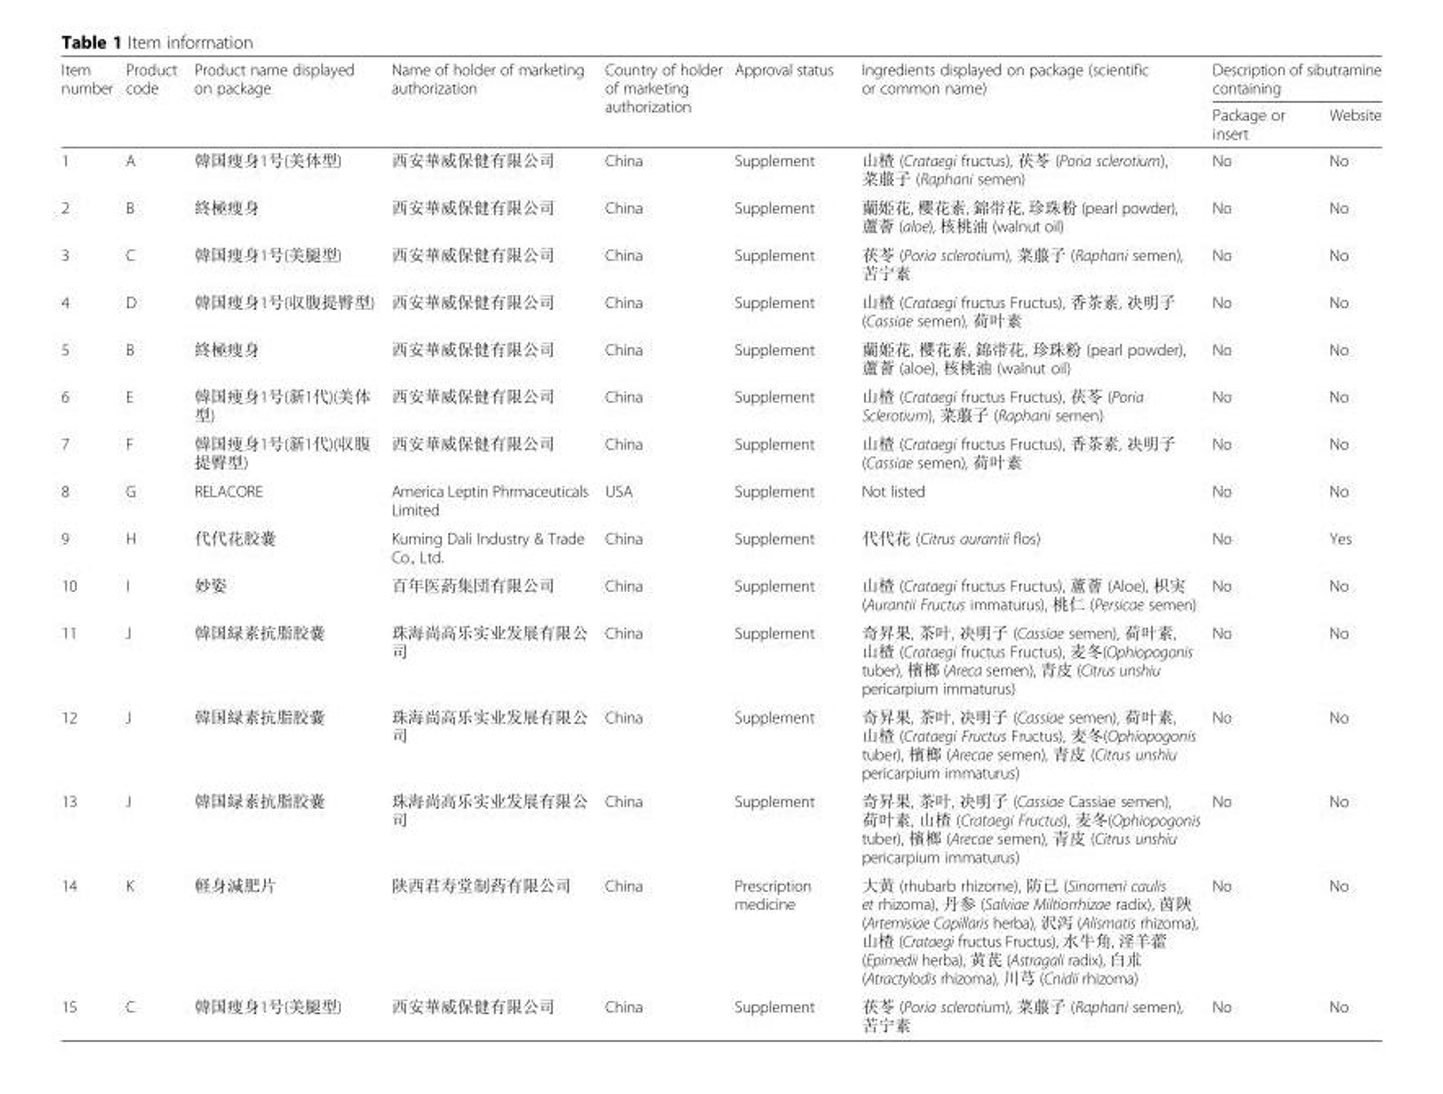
<table><thead><tr><td rowspan="2">Item number</td><td rowspan="2">Product code</td><td rowspan="2">Product name displayed on package</td><td rowspan="2">Name of holder of marketing authorization</td><td rowspan="2">Country of holder of marketing authorization</td><td rowspan="2">Approval status</td><td rowspan="2">Ingredients displayed on package (scientific or common name)</td><td colspan="2">Description of sibutramine containing</td></tr><tr><td>Package or insert</td><td>Website</td></tr></thead><tbody><tr><td>1</td><td>A</td><td>韓国痩身1号(美体型)</td><td>西安華威保健有限公司</td><td>China</td><td>Supplement</td><td>山楂 (Crataegi fructus), 茯苓 (Poria sclerotium), 菜菔子 (Raphani semen)</td><td>No</td><td>No</td></tr><tr><td>2</td><td>B</td><td>終極痩身</td><td>西安華威保健有限公司</td><td>China</td><td>Supplement</td><td>蘭姫花, 櫻花素, 錦帯花, 珍珠粉 (pearl powder), 蘆薈 (aloe), 核桃油 (walnut oil)</td><td>No</td><td>No</td></tr><tr><td>3</td><td>C</td><td>韓国痩身1号(美腿型)</td><td>西安華威保健有限公司</td><td>China</td><td>Supplement</td><td>茯苓 (Poria sclerotium), 菜菔子 (Raphani semen), 苦宁素</td><td>No</td><td>No</td></tr><tr><td>4</td><td>D</td><td>韓国痩身1号(収腹提臀型)</td><td>西安華威保健有限公司</td><td>China</td><td>Supplement</td><td>山楂 (Crataegi fructus Fructus), 香茶素, 决明子 (Cassiae semen), 荷叶素</td><td>No</td><td>No</td></tr><tr><td>5</td><td>B</td><td>終極痩身</td><td>西安華威保健有限公司</td><td>China</td><td>Supplement</td><td>蘭姫花, 櫻花素, 錦帯花, 珍珠粉 (pearl powder), 蘆薈 (aloe), 核桃油 (walnut oil)</td><td>No</td><td>No</td></tr><tr><td>6</td><td>E</td><td>韓国痩身1号(新1代)(美体 型)</td><td>西安華威保健有限公司</td><td>China</td><td>Supplement</td><td>山楂 (Crataegi fructus Fructus), 茯苓 (Poria Sclerotium), 菜菔子 (Raphani semen)</td><td>No</td><td>No</td></tr><tr><td>7</td><td>F</td><td>韓国痩身1号(新1代)(収腹 提臀型)</td><td>西安華威保健有限公司</td><td>China</td><td>Supplement</td><td>山楂 (Crataegi fructus Fructus), 香茶素, 决明子 (Cassiae semen), 荷叶素</td><td>No</td><td>No</td></tr><tr><td>8</td><td>G</td><td>RELACORE</td><td>America Leptin Phrmaceuticals Limited</td><td>USA</td><td>Supplement</td><td>Not listed</td><td>No</td><td>No</td></tr><tr><td>9</td><td>H</td><td>代代花胶嚢</td><td>Kuming Dali Industry &amp; Trade Co., Ltd.</td><td>China</td><td>Supplement</td><td>代代花 (Citrus aurantii flos)</td><td>No</td><td>Yes</td></tr><tr><td>10</td><td>I</td><td>妙姿</td><td>百年医葯集団有限公司</td><td>China</td><td>Supplement</td><td>山楂 (Crataegi fructus Fructus), 蘆薈 (Aloe), 枳実 (Aurantii Fructus immaturus), 桃仁 (Persicae semen)</td><td>No</td><td>No</td></tr><tr><td>11</td><td>J</td><td>韓国緑素抗脂胶嚢</td><td>珠海尚高乐实业发展有限公 司</td><td>China</td><td>Supplement</td><td>奇昇果, 茶叶, 决明子 (Cassiae semen), 荷叶素, 山楂 (Crataegi fructus Fructus), 麦冬(Ophiopogonis tuber), 檳榔 (Areca semen), 青皮 (Citrus unshiu pericarpium immaturus)</td><td>No</td><td>No</td></tr><tr><td>12</td><td>J</td><td>韓国緑素抗脂胶嚢</td><td>珠海尚高乐实业发展有限公 司</td><td>China</td><td>Supplement</td><td>奇昇果, 茶叶, 决明子 (Cassiae semen), 荷叶素, 山楂 (Crataegi Fructus Fructus), 麦冬(Ophiopogonis tuber), 檳榔 (Arecae semen), 青皮 (Citrus unshiu pericarpium immaturus)</td><td>No</td><td>No</td></tr><tr><td>13</td><td>J</td><td>韓国緑素抗脂胶嚢</td><td>珠海尚高乐实业发展有限公 司</td><td>China</td><td>Supplement</td><td>奇昇果, 茶叶, 决明子 (Cassiae Cassiae semen), 荷叶素, 山楂 (Crataegi Fructus), 麦冬(Ophiopogonis tuber), 檳榔 (Arecae semen), 青皮 (Citrus unshiu pericarpium immaturus)</td><td>No</td><td>No</td></tr><tr><td>14</td><td>K</td><td>軽身減肥片</td><td>陕西君寿堂制药有限公司</td><td>China</td><td>Prescription medicine</td><td>大黄 (rhubarb rhizome), 防已 (Sinomeni caulis et rhizoma), 丹参 (Salviae Miltiorrhizae radix), 茵陜 (Artemisiae Capillaris herba), 沢泻 (Alismatis rhizoma), 山楂 (Crataegi fructus Fructus), 水牛角, 淫羊藿 (Epimedii herba), 黄芪 (Astragali radix), 白朮 (Atractylodis rhizoma), 川芎 (Cnidii rhizoma)</td><td>No</td><td>No</td></tr><tr><td>15</td><td>C</td><td>韓国痩身1号(美腿型)</td><td>西安華威保健有限公司</td><td>China</td><td>Supplement</td><td>茯苓 (Poria sclerotium), 菜菔子 (Raphani semen), 苦宁素</td><td>No</td><td>No</td></tr></tbody></table>